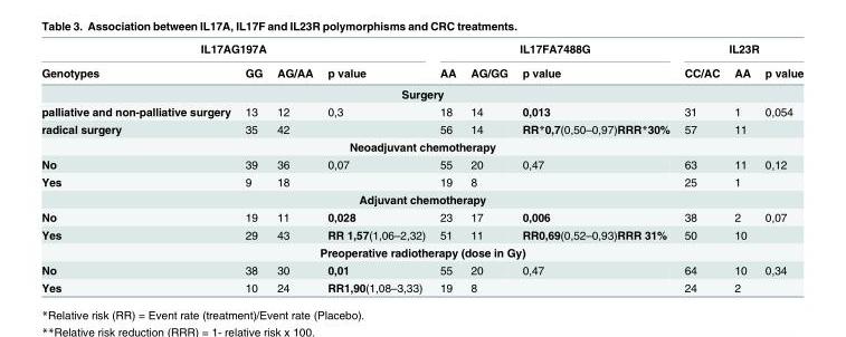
<table><thead><tr><td colspan="4">IL17AG197A</td><td colspan="3">IL17FA7488G</td><td colspan="3">IL23R</td></tr><tr><td>Genotypes</td><td>GG</td><td>AG/AA</td><td>p value</td><td>AA</td><td>AG/GG</td><td>p value</td><td>CC/AC</td><td>AA</td><td>p value</td></tr></thead><tbody><tr><td colspan="10">Surgery</td></tr><tr><td>palliative and non-palliative surgery</td><td>13</td><td>12</td><td>0,3</td><td>18</td><td>14</td><td>0,013</td><td>31</td><td>1</td><td>0,054</td></tr><tr><td>radical surgery</td><td>35</td><td>42</td><td></td><td>56</td><td>14</td><td>RR*0,7(0,50–0,97)RRR*30%</td><td>57</td><td>11</td><td></td></tr><tr><td colspan="10">Neoadjuvant chemotherapy</td></tr><tr><td>No</td><td>39</td><td>36</td><td>0,07</td><td>55</td><td>20</td><td>0,47</td><td>63</td><td>11</td><td>0,12</td></tr><tr><td>Yes</td><td>9</td><td>18</td><td></td><td>19</td><td>8</td><td></td><td>25</td><td>1</td><td></td></tr><tr><td colspan="10">Adjuvant chemotherapy</td></tr><tr><td>No</td><td>19</td><td>11</td><td>0,028</td><td>23</td><td>17</td><td>0,006</td><td>38</td><td>2</td><td>0,07</td></tr><tr><td>Yes</td><td>29</td><td>43</td><td>RR 1,57(1,06–2,32)</td><td>51</td><td>11</td><td>RR0,69(0,52–0,93)RRR 31%</td><td>50</td><td>10</td><td></td></tr><tr><td colspan="10">Preoperative radiotherapy (dose in Gy)</td></tr><tr><td>No</td><td>38</td><td>30</td><td>0,01</td><td>55</td><td>20</td><td>0,47</td><td>64</td><td>10</td><td>0,34</td></tr><tr><td>Yes</td><td>10</td><td>24</td><td>RR1,90(1,08–3,33)</td><td>19</td><td>8</td><td></td><td>24</td><td>2</td><td></td></tr></tbody></table>